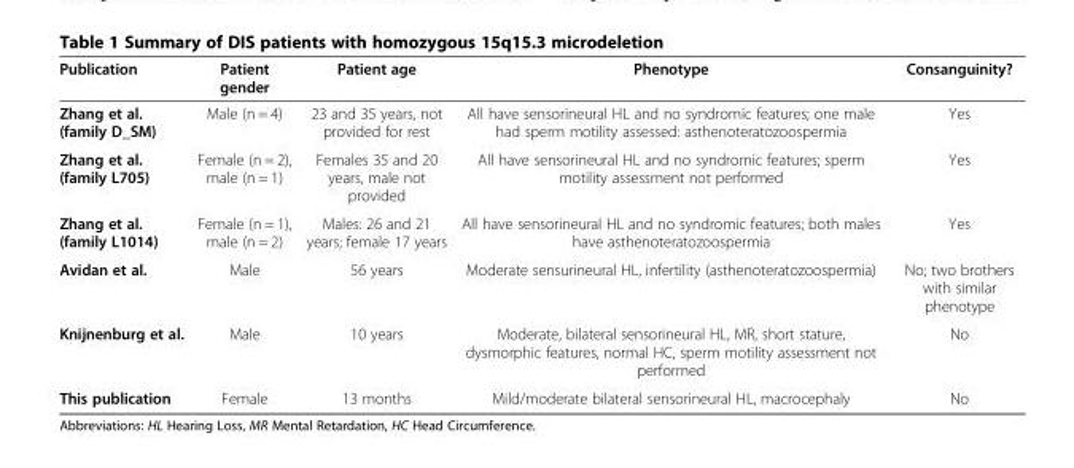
<table><thead><tr><td>Publication</td><td>Patient gender</td><td>Patient age</td><td>Phenotype</td><td>Consanguinity?</td></tr></thead><tbody><tr><td>Zhang et al. (family D_SM)</td><td>Male (n = 4)</td><td>23 and 35 years, not provided for rest</td><td>All have sensorineural HL and no syndromic features; one male had sperm motility assessed: asthenoteratozoospermia</td><td>Yes</td></tr><tr><td>Zhang et al. (family L705)</td><td>Female (n = 2), male (n = 1)</td><td>Females 35 and 20 years, male not provided</td><td>All have sensorineural HL and no syndromic features; sperm motility assessment not performed</td><td>Yes</td></tr><tr><td>Zhang et al. (family L1014)</td><td>Female (n = 1), male (n = 2)</td><td>Males: 26 and 21 years; female 17 years</td><td>All have sensorineural HL and no syndromic features; both males have asthenoteratozoospermia</td><td>Yes</td></tr><tr><td>Avidan et al.</td><td>Male</td><td>56 years</td><td>Moderate sensurineural HL, infertility (asthenoteratozoospermia)</td><td>No; two brothers with similar phenotype</td></tr><tr><td>Knijnenburg et al.</td><td>Male</td><td>10 years</td><td>Moderate, bilateral sensorineural HL, MR, short stature, dysmorphic features, normal HC, sperm motility assessment not performed</td><td>No</td></tr><tr><td>This publication</td><td>Female</td><td>13 months</td><td>Mild/moderate bilateral sensorineural HL, macrocephaly</td><td>No</td></tr></tbody></table>